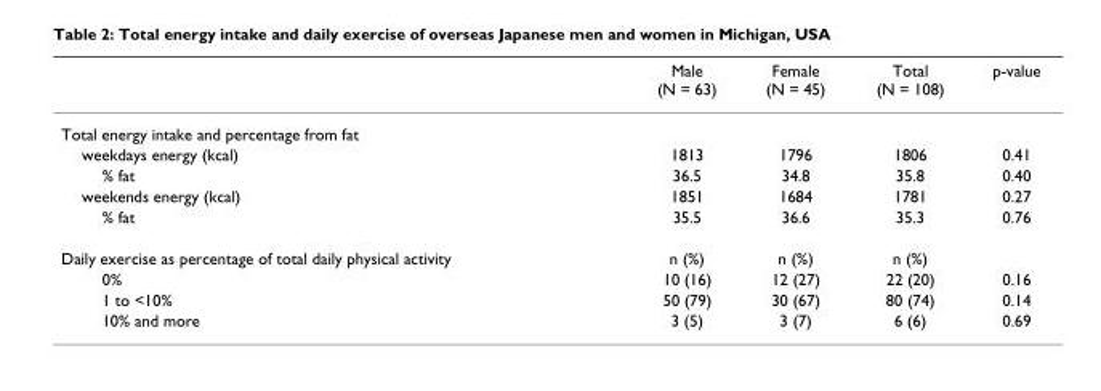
<table><thead><tr><td></td><td>Male (N = 63)</td><td>Female (N = 45)</td><td>Total (N = 108)</td><td>p-value</td></tr></thead><tbody><tr><td colspan="5">Total energy intake and percentage from fat</td></tr><tr><td>weekdays energy (kcal)</td><td>1813</td><td>1796</td><td>1806</td><td>0.41</td></tr><tr><td>% fat</td><td>36.5</td><td>34.8</td><td>35.8</td><td>0.40</td></tr><tr><td>weekends energy (kcal)</td><td>1851</td><td>1684</td><td>1781</td><td>0.27</td></tr><tr><td>% fat</td><td>35.5</td><td>36.6</td><td>35.3</td><td>0.76</td></tr><tr><td>Daily exercise as percentage of total daily physical activity</td><td>n (%)</td><td>n (%)</td><td>n (%)</td><td></td></tr><tr><td>0%</td><td>10 (16)</td><td>12 (27)</td><td>22 (20)</td><td>0.16</td></tr><tr><td>1 to &lt;10%</td><td>50 (79)</td><td>30 (67)</td><td>80 (74)</td><td>0.14</td></tr><tr><td>10% and more</td><td>3 (5)</td><td>3 (7)</td><td>6 (6)</td><td>0.69</td></tr></tbody></table>